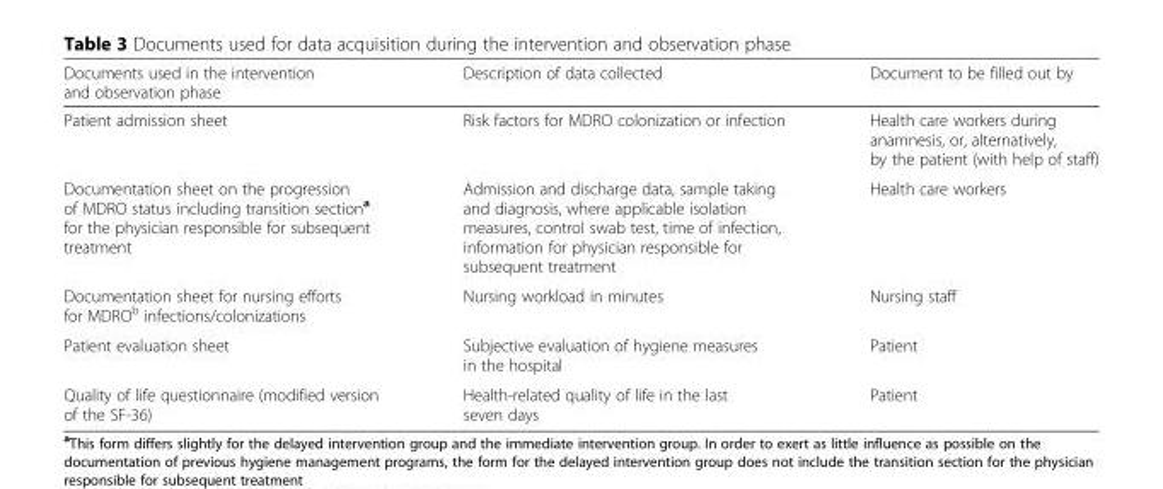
<table><thead><tr><td>Documents used in the intervention and observation phase</td><td>Description of data collected</td><td>Document to be filled out by</td></tr></thead><tbody><tr><td>Patient admission sheet</td><td>Risk factors for MDRO colonization or infection</td><td>Health care workers during anamnesis, or, alternatively, by the patient (with help of staff)</td></tr><tr><td>Documentation sheet on the progression of MDRO status including transition section<sup>a</sup> for the physician responsible for subsequent treatment</td><td>Admission and discharge data, sample taking and diagnosis, where applicable isolation measures, control swab test, time of infection, information for physician responsible for subsequent treatment</td><td>Health care workers</td></tr><tr><td>Documentation sheet for nursing efforts for MDRO<sup>b</sup> infections/colonizations</td><td>Nursing workload in minutes</td><td>Nursing staff</td></tr><tr><td>Patient evaluation sheet</td><td>Subjective evaluation of hygiene measures in the hospital</td><td>Patient</td></tr><tr><td>Quality of life questionnaire (modified version of the SF-36)</td><td>Health-related quality of life in the last seven days</td><td>Patient</td></tr></tbody></table>